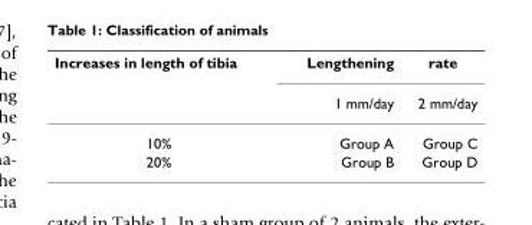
<table><thead><tr><td rowspan="2">Increases in length of tibia</td><td rowspan="2">Lengthening 1 mm/day</td><td rowspan="2">rate 2 mm/day</td></tr><tr></tr></thead><tbody><tr><td>10%</td><td>Group A</td><td>Group C</td></tr><tr><td>20%</td><td>Group B</td><td>Group D</td></tr></tbody></table>